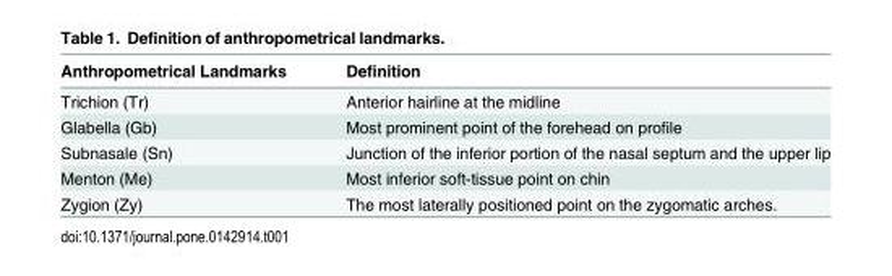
<table><thead><tr><td>Anthropometrical Landmarks</td><td>Definition</td></tr></thead><tbody><tr><td>Trichion (Tr)</td><td>Anterior hairline at the midline</td></tr><tr><td>Glabella (Gb)</td><td>Most prominent point of the forehead on profile</td></tr><tr><td>Subnasale (Sn)</td><td>Junction of the inferior portion of the nasal septum and the upper lip</td></tr><tr><td>Menton (Me)</td><td>Most inferior soft-tissue point on chin</td></tr><tr><td>Zygion (Zy)</td><td>The most laterally positioned point on the zygomatic arches.</td></tr></tbody></table>